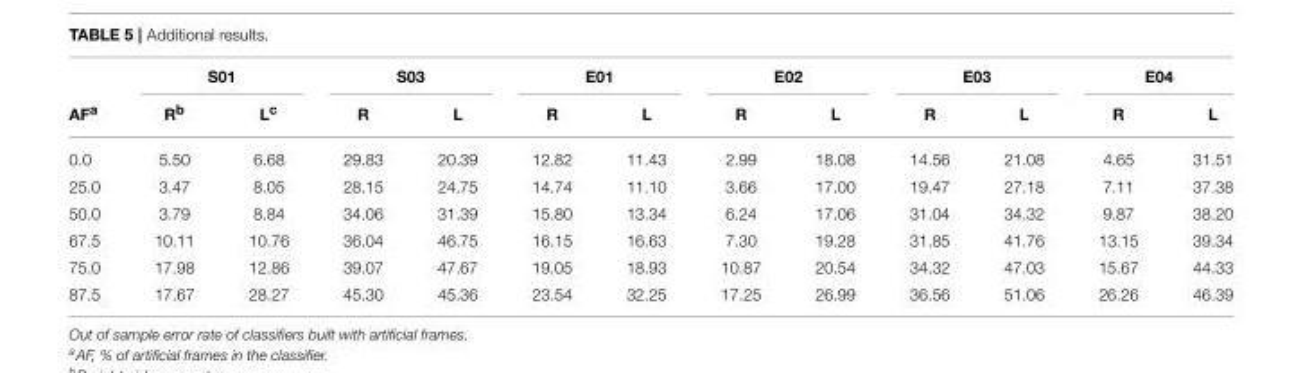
<table><thead><tr><td rowspan="2">AF<sup>a</sup></td><td colspan="2">S01</td><td colspan="2">S03</td><td colspan="2">E01</td><td colspan="2">E02</td><td colspan="2">E03</td><td colspan="2">E04</td></tr><tr><td>R<sup>b</sup></td><td>L<sup>c</sup></td><td>R</td><td>L</td><td>R</td><td>L</td><td>R</td><td>L</td><td>R</td><td>L</td><td>R</td><td>L</td></tr></thead><tbody><tr><td>0.0</td><td>5.50</td><td>6.68</td><td>29.83</td><td>20.39</td><td>12.82</td><td>11.43</td><td>2.99</td><td>18.08</td><td>14.56</td><td>21.08</td><td>4.65</td><td>31.51</td></tr><tr><td>25.0</td><td>3.47</td><td>8.05</td><td>28.15</td><td>24.75</td><td>14.74</td><td>11.10</td><td>3.66</td><td>17.00</td><td>19.47</td><td>27.18</td><td>7.11</td><td>37.38</td></tr><tr><td>50.0</td><td>3.79</td><td>8.84</td><td>34.06</td><td>31.39</td><td>15.80</td><td>13.34</td><td>6.24</td><td>17.06</td><td>31.04</td><td>34.32</td><td>9.87</td><td>38.20</td></tr><tr><td>67.5</td><td>10.11</td><td>10.76</td><td>36.04</td><td>46.75</td><td>16.15</td><td>16.63</td><td>7.30</td><td>19.28</td><td>31.85</td><td>41.76</td><td>13.15</td><td>39.34</td></tr><tr><td>75.0</td><td>17.98</td><td>12.86</td><td>39.07</td><td>47.67</td><td>19.05</td><td>18.93</td><td>10.87</td><td>20.54</td><td>34.32</td><td>47.03</td><td>15.67</td><td>44.33</td></tr><tr><td>87.5</td><td>17.67</td><td>28.27</td><td>45.30</td><td>45.36</td><td>23.54</td><td>32.25</td><td>17.25</td><td>26.99</td><td>36.56</td><td>51.06</td><td>26.26</td><td>46.39</td></tr></tbody></table>